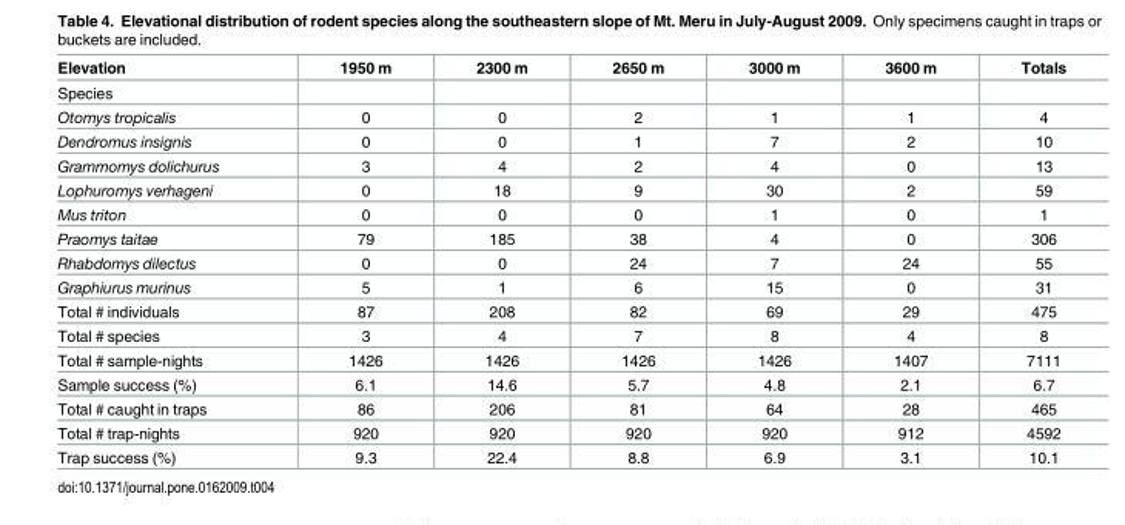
<table><thead><tr><td>Elevation</td><td>1950 m</td><td>2300 m</td><td>2650 m</td><td>3000 m</td><td>3600 m</td><td>Totals</td></tr></thead><tbody><tr><td colspan="7">Species</td></tr><tr><td>Otomys tropicalis</td><td>0</td><td>0</td><td>2</td><td>1</td><td>1</td><td>4</td></tr><tr><td>Dendromus insignis</td><td>0</td><td>0</td><td>1</td><td>7</td><td>2</td><td>10</td></tr><tr><td>Grammomys dolichurus</td><td>3</td><td>4</td><td>2</td><td>4</td><td>0</td><td>13</td></tr><tr><td>Lophuromys verhageni</td><td>0</td><td>18</td><td>9</td><td>30</td><td>2</td><td>59</td></tr><tr><td>Mus triton</td><td>0</td><td>0</td><td>0</td><td>1</td><td>0</td><td>1</td></tr><tr><td>Praomys taitae</td><td>79</td><td>185</td><td>38</td><td>4</td><td>0</td><td>306</td></tr><tr><td>Rhabdomys dilectus</td><td>0</td><td>0</td><td>24</td><td>7</td><td>24</td><td>55</td></tr><tr><td>Graphiurus murinus</td><td>5</td><td>1</td><td>6</td><td>15</td><td>0</td><td>31</td></tr><tr><td>Total # individuals</td><td>87</td><td>208</td><td>82</td><td>69</td><td>29</td><td>475</td></tr><tr><td>Total # species</td><td>3</td><td>4</td><td>7</td><td>8</td><td>4</td><td>8</td></tr><tr><td>Total # sample-nights</td><td>1426</td><td>1426</td><td>1426</td><td>1426</td><td>1407</td><td>7111</td></tr><tr><td>Sample success (%)</td><td>6.1</td><td>14.6</td><td>5.7</td><td>4.8</td><td>2.1</td><td>6.7</td></tr><tr><td>Total # caught in traps</td><td>86</td><td>206</td><td>81</td><td>64</td><td>28</td><td>465</td></tr><tr><td>Total # trap-nights</td><td>920</td><td>920</td><td>920</td><td>920</td><td>912</td><td>4592</td></tr><tr><td>Trap success (%)</td><td>9.3</td><td>22.4</td><td>8.8</td><td>6.9</td><td>3.1</td><td>10.1</td></tr></tbody></table>